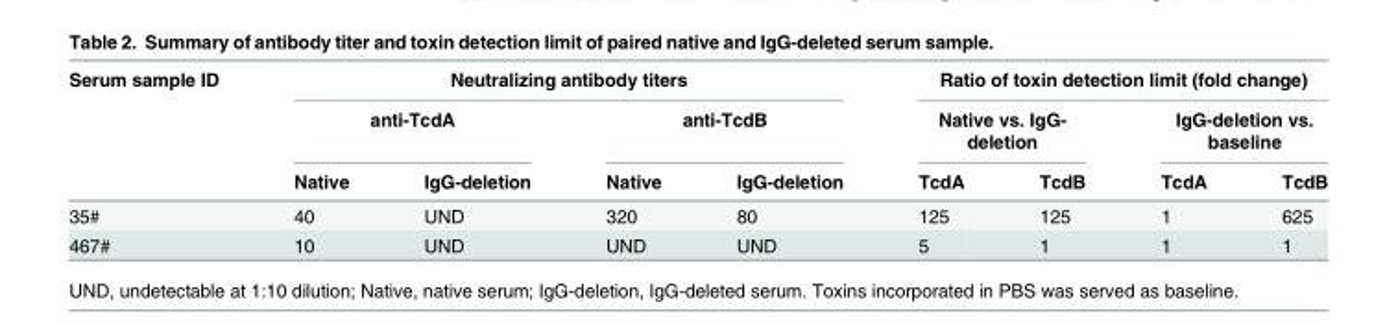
<table><thead><tr><td rowspan="3">Serum sample ID</td><td colspan="4">Neutralizing antibody titers</td><td colspan="4">Ratio of toxin detection limit (fold change)</td></tr><tr><td colspan="2">anti-TcdA</td><td colspan="2">anti-TcdB</td><td colspan="2">Native vs. IgG- deletion</td><td colspan="2">IgG-deletion vs. baseline</td></tr><tr><td>Native</td><td>IgG-deletion</td><td>Native</td><td>IgG-deletion</td><td>TcdA</td><td>TcdB</td><td>TcdA</td><td>TcdB</td></tr></thead><tbody><tr><td>35#</td><td>40</td><td>UND</td><td>320</td><td>80</td><td>125</td><td>125</td><td>1</td><td>625</td></tr><tr><td>467#</td><td>10</td><td>UND</td><td>UND</td><td>UND</td><td>5</td><td>1</td><td>1</td><td>1</td></tr></tbody></table>